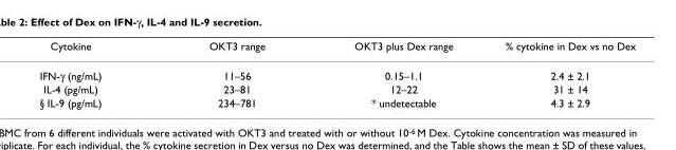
<table><thead><tr><td>Cytokine</td><td>OKT3 range</td><td>OKT3 plus Dex range</td><td>% cytokine in Dex vs no Dex</td></tr></thead><tbody><tr><td>IFN-γ (ng/mL)</td><td>11–56</td><td>0.15–1.1</td><td>2.4 ± 2.1</td></tr><tr><td>IL-4 (pg/mL)</td><td>23–81</td><td>12–22</td><td>31 ± 14</td></tr><tr><td>§ IL-9 (pg/mL)</td><td>234–781</td><td>* undetectable</td><td>4.3 ± 2.9</td></tr></tbody></table>